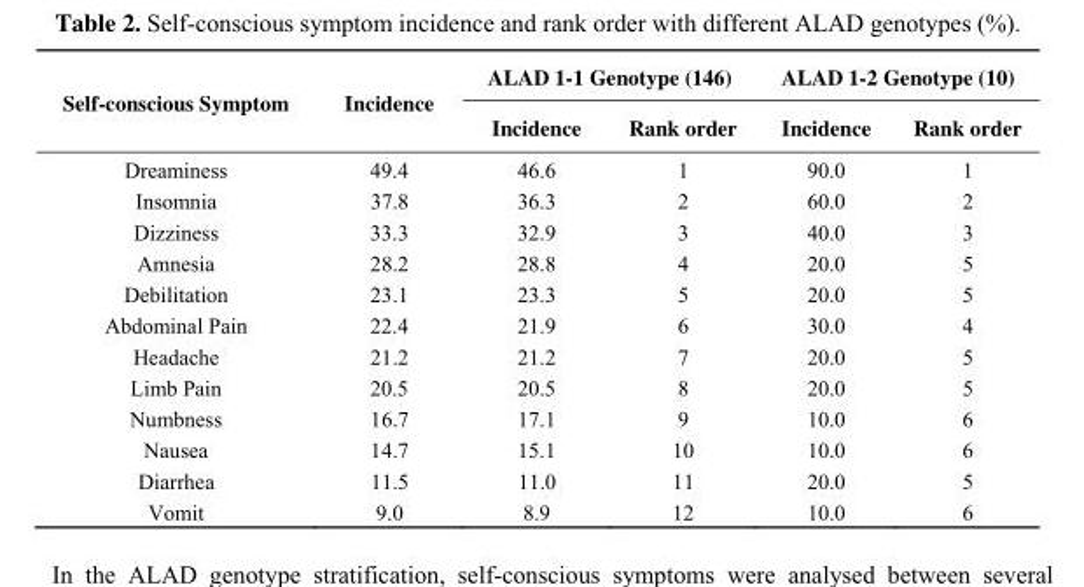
<table><thead><tr><td rowspan="2">Self-conscious Symptom</td><td rowspan="2">Incidence</td><td colspan="2">ALAD 1-1 Genotype (146)</td><td colspan="2">ALAD 1-2 Genotype (10)</td></tr><tr><td>Incidence</td><td>Rank order</td><td>Incidence</td><td>Rank order</td></tr></thead><tbody><tr><td>Dreaminess</td><td>49.4</td><td>46.6</td><td>1</td><td>90.0</td><td>1</td></tr><tr><td>Insomnia</td><td>37.8</td><td>36.3</td><td>2</td><td>60.0</td><td>2</td></tr><tr><td>Dizziness</td><td>33.3</td><td>32.9</td><td>3</td><td>40.0</td><td>3</td></tr><tr><td>Amnesia</td><td>28.2</td><td>28.8</td><td>4</td><td>20.0</td><td>5</td></tr><tr><td>Debilitation</td><td>23.1</td><td>23.3</td><td>5</td><td>20.0</td><td>5</td></tr><tr><td>Abdominal Pain</td><td>22.4</td><td>21.9</td><td>6</td><td>30.0</td><td>4</td></tr><tr><td>Headache</td><td>21.2</td><td>21.2</td><td>7</td><td>20.0</td><td>5</td></tr><tr><td>Limb Pain</td><td>20.5</td><td>20.5</td><td>8</td><td>20.0</td><td>5</td></tr><tr><td>Numbness</td><td>16.7</td><td>17.1</td><td>9</td><td>10.0</td><td>6</td></tr><tr><td>Nausea</td><td>14.7</td><td>15.1</td><td>10</td><td>10.0</td><td>6</td></tr><tr><td>Diarrhea</td><td>11.5</td><td>11.0</td><td>11</td><td>20.0</td><td>5</td></tr><tr><td>Vomit</td><td>9.0</td><td>8.9</td><td>12</td><td>10.0</td><td>6</td></tr></tbody></table>